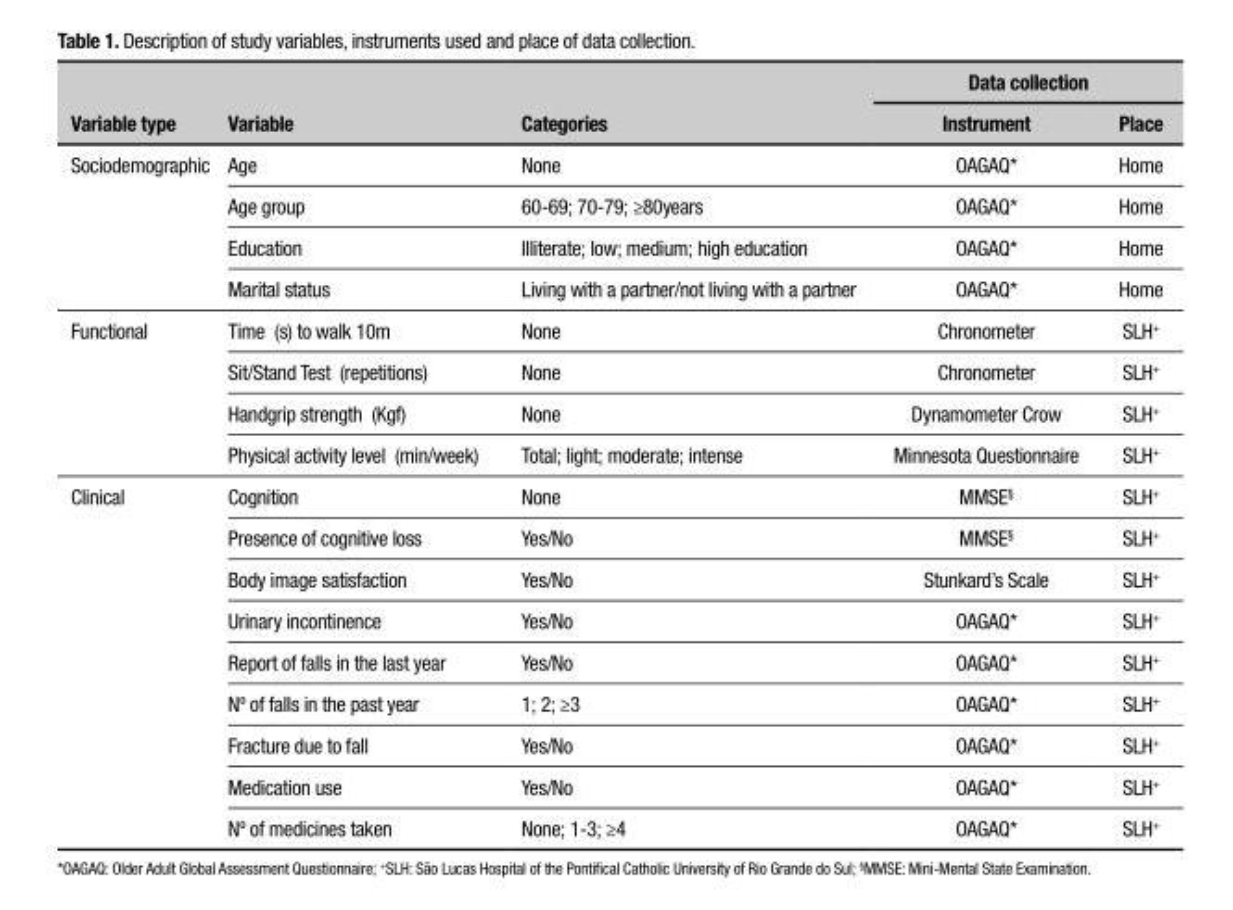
<table><thead><tr><td rowspan="2">Variable type</td><td rowspan="2">Variable</td><td rowspan="2">Categories</td><td colspan="2">Data collection</td></tr><tr><td>Instrument</td><td>Place</td></tr></thead><tbody><tr><td rowspan="4">Sociodemographic</td><td>Age</td><td>None</td><td>OAGAQ*</td><td>Home</td></tr><tr><td>Age group</td><td>60-69; 70-79; ≥80years</td><td>OAGAQ*</td><td>Home</td></tr><tr><td>Education</td><td>Illiterate; low; medium; high education</td><td>OAGAQ*</td><td>Home</td></tr><tr><td>Marital status</td><td>Living with a partner/not living with a partner</td><td>OAGAQ*</td><td>Home</td></tr><tr><td rowspan="4">Functional</td><td>Time (s) to walk 10m</td><td>None</td><td>Chronometer</td><td>SLH+</td></tr><tr><td>Sit/Stand Test (repetitions)</td><td>None</td><td>Chronometer</td><td>SLH+</td></tr><tr><td>Handgrip strength (Kgf)</td><td>None</td><td>Dynamometer Crow</td><td>SLH+</td></tr><tr><td>Physical activity level (min/week)</td><td>Total; light; moderate; intense</td><td>Minnesota Questionnaire</td><td>SLH+</td></tr><tr><td rowspan="9">Clinical</td><td>Cognition</td><td>None</td><td>MMSE§</td><td>SLH+</td></tr><tr><td>Presence of cognitive loss</td><td>Yes/No</td><td>MMSE§</td><td>SLH+</td></tr><tr><td>Body image satisfaction</td><td>Yes/No</td><td>Stunkard’s Scale</td><td>SLH+</td></tr><tr><td>Urinary incontinence</td><td>Yes/No</td><td>OAGAQ*</td><td>SLH+</td></tr><tr><td>Report of falls in the last year</td><td>Yes/No</td><td>OAGAQ*</td><td>SLH+</td></tr><tr><td>Nº of falls in the past year</td><td>1; 2; ≥3</td><td>OAGAQ*</td><td>SLH+</td></tr><tr><td>Fracture due to fall</td><td>Yes/No</td><td>OAGAQ*</td><td>SLH+</td></tr><tr><td>Medication use</td><td>Yes/No</td><td>OAGAQ*</td><td>SLH+</td></tr><tr><td>Nº of medicines taken</td><td>None; 1-3; ≥4</td><td>OAGAQ*</td><td>SLH+</td></tr></tbody></table>